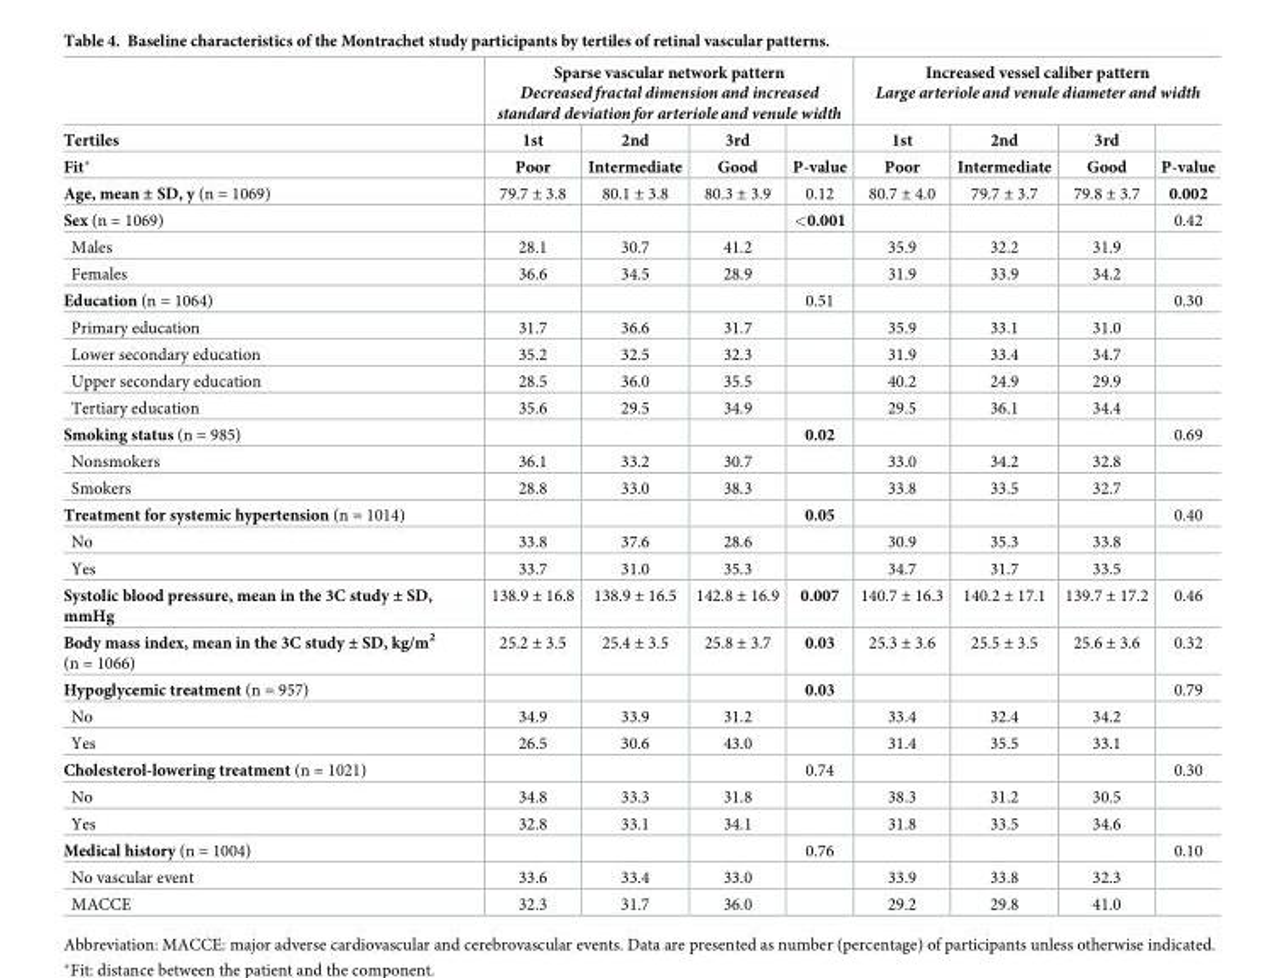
<table><thead><tr><td rowspan="3">Tertiles Fit*</td><td colspan="4">Sparse vascular network pattern Decreased fractal dimension and increased standard deviation for arteriole and venule width</td><td colspan="4">Increased vessel caliber pattern Large arteriole and venule diameter and width</td></tr><tr><td rowspan="2">1st Poor</td><td rowspan="2">2nd Intermediate</td><td rowspan="2">3rd Good</td><td rowspan="2">P-value</td><td rowspan="2">1st Poor</td><td rowspan="2">2nd Intermediate</td><td rowspan="2">3rd Good</td><td rowspan="2">P-value</td></tr><tr></tr></thead><tbody><tr><td>Age, mean ± SD, y (n = 1069)</td><td>79.7 ± 3.8</td><td>80.1 ± 3.8</td><td>80.3 ± 3.9</td><td>0.12</td><td>80.7 ± 4.0</td><td>79.7 ± 3.7</td><td>79.8 ± 3.7</td><td>0.002</td></tr><tr><td>Sex (n = 1069)</td><td></td><td></td><td></td><td>&lt;0.001</td><td></td><td></td><td></td><td>0.42</td></tr><tr><td>Males</td><td>28.1</td><td>30.7</td><td>41.2</td><td></td><td>35.9</td><td>32.2</td><td>31.9</td><td></td></tr><tr><td>Females</td><td>36.6</td><td>34.5</td><td>28.9</td><td></td><td>31.9</td><td>33.9</td><td>34.2</td><td></td></tr><tr><td>Education (n = 1064)</td><td></td><td></td><td></td><td>0.51</td><td></td><td></td><td></td><td>0.30</td></tr><tr><td>Primary education</td><td>31.7</td><td>36.6</td><td>31.7</td><td></td><td>35.9</td><td>33.1</td><td>31.0</td><td></td></tr><tr><td>Lower secondary education</td><td>35.2</td><td>32.5</td><td>32.3</td><td></td><td>31.9</td><td>33.4</td><td>34.7</td><td></td></tr><tr><td>Upper secondary education</td><td>28.5</td><td>36.0</td><td>35.5</td><td></td><td>40.2</td><td>24.9</td><td>29.9</td><td></td></tr><tr><td>Tertiary education</td><td>35.6</td><td>29.5</td><td>34.9</td><td></td><td>29.5</td><td>36.1</td><td>34.4</td><td></td></tr><tr><td>Smoking status (n = 985)</td><td></td><td></td><td></td><td>0.02</td><td></td><td></td><td></td><td>0.69</td></tr><tr><td>Nonsmokers</td><td>36.1</td><td>33.2</td><td>30.7</td><td></td><td>33.0</td><td>34.2</td><td>32.8</td><td></td></tr><tr><td>Smokers</td><td>28.8</td><td>33.0</td><td>38.3</td><td></td><td>33.8</td><td>33.5</td><td>32.7</td><td></td></tr><tr><td>Treatment for systemic hypertension (n = 1014)</td><td></td><td></td><td></td><td>0.05</td><td></td><td></td><td></td><td>0.40</td></tr><tr><td>No</td><td>33.8</td><td>37.6</td><td>28.6</td><td></td><td>30.9</td><td>35.3</td><td>33.8</td><td></td></tr><tr><td>Yes</td><td>33.7</td><td>31.0</td><td>35.3</td><td></td><td>34.7</td><td>31.7</td><td>33.5</td><td></td></tr><tr><td>Systolic blood pressure, mean in the 3C study ± SD, mmHg</td><td>138.9 ± 16.8</td><td>138.9 ± 16.5</td><td>142.8 ± 16.9</td><td>0.007</td><td>140.7 ± 16.3</td><td>140.2 ± 17.1</td><td>139.7 ± 17.2</td><td>0.46</td></tr><tr><td>Body mass index, mean in the 3C study ± SD, kg/m<sup>2</sup> (n = 1066)</td><td>25.2 ± 3.5</td><td>25.4 ± 3.5</td><td>25.8 ± 3.7</td><td>0.03</td><td>25.3 ± 3.6</td><td>25.5 ± 3.5</td><td>25.6 ± 3.6</td><td>0.32</td></tr><tr><td>Hypoglycemic treatment (n = 957)</td><td></td><td></td><td></td><td>0.03</td><td></td><td></td><td></td><td>0.79</td></tr><tr><td>No</td><td>34.9</td><td>33.9</td><td>31.2</td><td></td><td>33.4</td><td>32.4</td><td>34.2</td><td></td></tr><tr><td>Yes</td><td>26.5</td><td>30.6</td><td>43.0</td><td></td><td>31.4</td><td>35.5</td><td>33.1</td><td></td></tr><tr><td>Cholesterol-lowering treatment (n = 1021)</td><td></td><td></td><td></td><td>0.74</td><td></td><td></td><td></td><td>0.30</td></tr><tr><td>No</td><td>34.8</td><td>33.3</td><td>31.8</td><td></td><td>38.3</td><td>31.2</td><td>30.5</td><td></td></tr><tr><td>Yes</td><td>32.8</td><td>33.1</td><td>34.1</td><td></td><td>31.8</td><td>33.5</td><td>34.6</td><td></td></tr><tr><td>Medical history (n = 1004)</td><td></td><td></td><td></td><td>0.76</td><td></td><td></td><td></td><td>0.10</td></tr><tr><td>No vascular event</td><td>33.6</td><td>33.4</td><td>33.0</td><td></td><td>33.9</td><td>33.8</td><td>32.3</td><td></td></tr><tr><td>MACCE</td><td>32.3</td><td>31.7</td><td>36.0</td><td></td><td>29.2</td><td>29.8</td><td>41.0</td><td></td></tr></tbody></table>